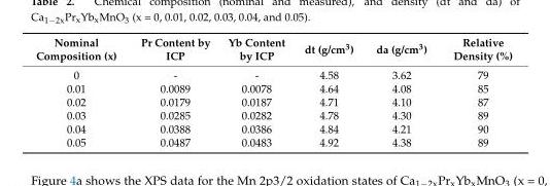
<table><thead><tr><td>Nominal Composition (x)</td><td>Pr Content by ICP</td><td>Yb Content by ICP</td><td>dt (g/cm<sup>3</sup>)</td><td>da (g/cm<sup>3</sup>)</td><td>Relative Density (%)</td></tr></thead><tbody><tr><td>0</td><td>-</td><td>-</td><td>4.58</td><td>3.62</td><td>79</td></tr><tr><td>0.01</td><td>0.0089</td><td>0.0078</td><td>4.64</td><td>4.08</td><td>85</td></tr><tr><td>0.02</td><td>0.0179</td><td>0.0187</td><td>4.71</td><td>4.10</td><td>87</td></tr><tr><td>0.03</td><td>0.0285</td><td>0.0282</td><td>4.78</td><td>4.30</td><td>89</td></tr><tr><td>0.04</td><td>0.0388</td><td>0.0386</td><td>4.84</td><td>4.21</td><td>90</td></tr><tr><td>0.05</td><td>0.0487</td><td>0.0483</td><td>4.92</td><td>4.38</td><td>89</td></tr></tbody></table>